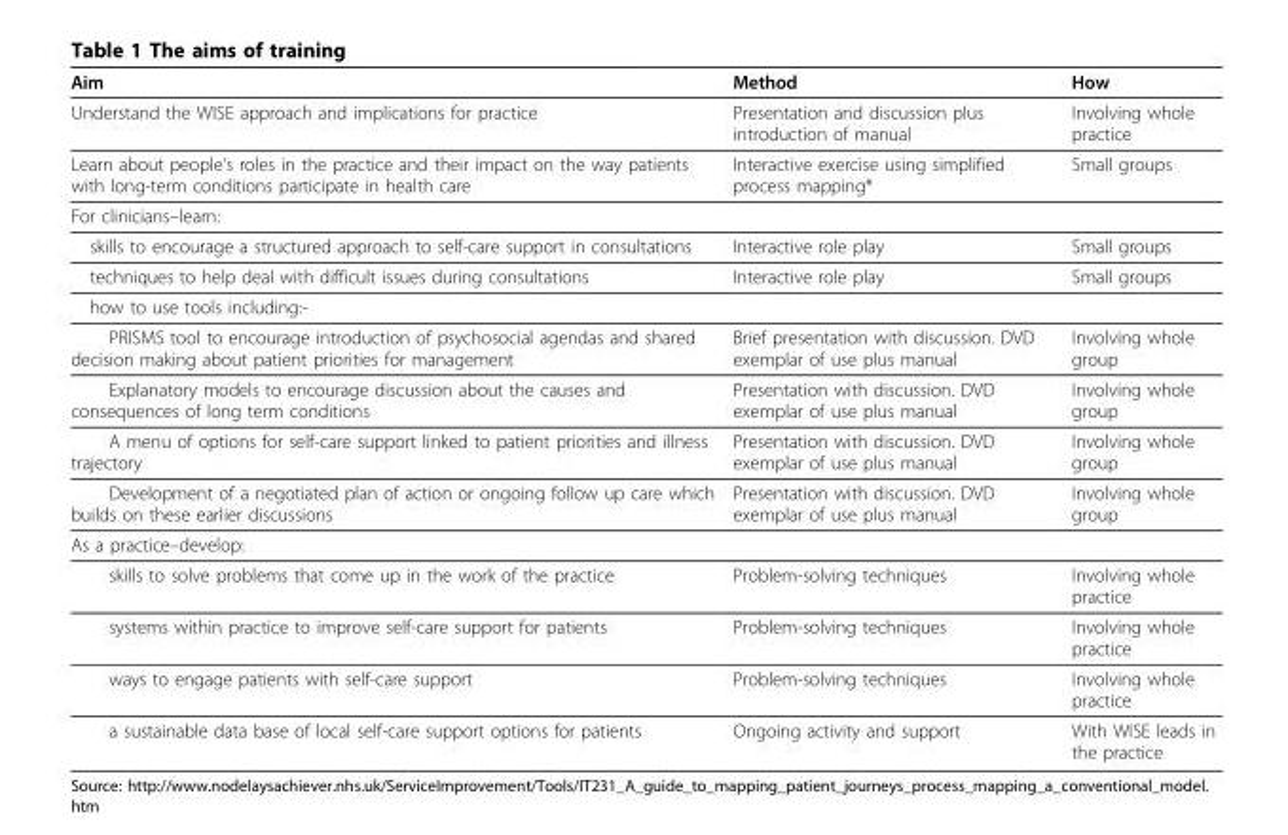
<table><thead><tr><td>Aim</td><td>Method</td><td>How</td></tr></thead><tbody><tr><td>Understand the WISE approach and implications for practice</td><td>Presentation and discussion plus introduction of manual</td><td>Involving whole practice</td></tr><tr><td>Learn about people’s roles in the practice and their impact on the way patients with long-term conditions participate in health care</td><td>Interactive exercise using simplified process mapping*</td><td>Small groups</td></tr><tr><td colspan="3">For clinicians–learn:</td></tr><tr><td>skills to encourage a structured approach to self-care support in consultations</td><td>Interactive role play</td><td>Small groups</td></tr><tr><td>techniques to help deal with difficult issues during consultations</td><td>Interactive role play</td><td>Small groups</td></tr><tr><td colspan="3">how to use tools including:-</td></tr><tr><td>PRISMS tool to encourage introduction of psychosocial agendas and shared decision making about patient priorities for management</td><td>Brief presentation with discussion. DVD exemplar of use plus manual</td><td>Involving whole group</td></tr><tr><td>Explanatory models to encourage discussion about the causes and consequences of long term conditions</td><td>Presentation with discussion. DVD exemplar of use plus manual</td><td>Involving whole group</td></tr><tr><td>A menu of options for self-care support linked to patient priorities and illness trajectory</td><td>Presentation with discussion. DVD exemplar of use plus manual</td><td>Involving whole group</td></tr><tr><td>Development of a negotiated plan of action or ongoing follow up care which builds on these earlier discussions</td><td>Presentation with discussion. DVD exemplar of use plus manual</td><td>Involving whole group</td></tr><tr><td colspan="3">As a practice–develop:</td></tr><tr><td>skills to solve problems that come up in the work of the practice</td><td>Problem-solving techniques</td><td>Involving whole practice</td></tr><tr><td>systems within practice to improve self-care support for patients</td><td>Problem-solving techniques</td><td>Involving whole practice</td></tr><tr><td>ways to engage patients with self-care support</td><td>Problem-solving techniques</td><td>Involving whole practice</td></tr><tr><td>a sustainable data base of local self-care support options for patients</td><td>Ongoing activity and support</td><td>With WISE leads in the practice</td></tr></tbody></table>